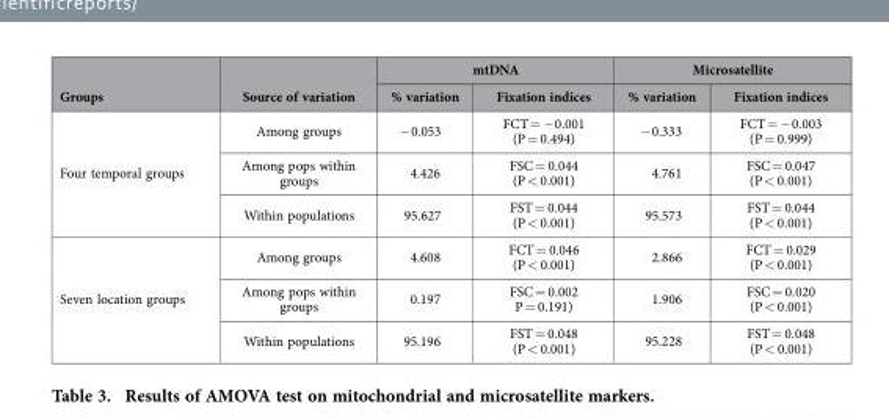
<table><thead><tr><td rowspan="2">Groups</td><td rowspan="2">Source of variation</td><td colspan="2">mtDNA</td><td colspan="2">Microsatellite</td></tr><tr><td>% variation</td><td>Fixation indices</td><td>% variation</td><td>Fixation indices</td></tr></thead><tbody><tr><td rowspan="3">Four temporal groups</td><td>Among groups</td><td>− 0.053</td><td>FCT = − 0.001 (P = 0.494)</td><td>− 0.333</td><td>FCT = − 0.003 (P = 0.999)</td></tr><tr><td>Among pops within groups</td><td>4.426</td><td>FSC = 0.044 (P &lt; 0.001)</td><td>4.761</td><td>FSC = 0.047 (P &lt; 0.001)</td></tr><tr><td>Within populations</td><td>95.627</td><td>FST = 0.044 (P &lt; 0.001)</td><td>95.573</td><td>FST = 0.044 (P &lt; 0.001)</td></tr><tr><td rowspan="3">Seven location groups</td><td>Among groups</td><td>4.608</td><td>FCT = 0.046 (P &lt; 0.001)</td><td>2.866</td><td>FCT = 0.029 (P &lt; 0.001)</td></tr><tr><td>Among pops within groups</td><td>0.197</td><td>FSC = 0.002 P = 0.191)</td><td>1.906</td><td>FSC = 0.020 (P &lt; 0.001)</td></tr><tr><td>Within populations</td><td>95.196</td><td>FST = 0.048 (P &lt; 0.001)</td><td>95.228</td><td>FST = 0.048 (P &lt; 0.001)</td></tr></tbody></table>